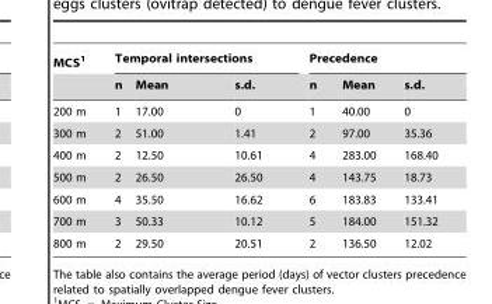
<table><thead><tr><td rowspan="2">MCS<sup>1</sup></td><td colspan="3">Temporal intersections</td><td colspan="3">Precedence</td></tr><tr><td>n</td><td>Mean</td><td>s.d.</td><td>n</td><td>Mean</td><td>s.d.</td></tr></thead><tbody><tr><td>200 m</td><td>1</td><td>17.00</td><td>0</td><td>1</td><td>40.00</td><td>0</td></tr><tr><td>300 m</td><td>2</td><td>51.00</td><td>1.41</td><td>2</td><td>97.00</td><td>35.36</td></tr><tr><td>400 m</td><td>2</td><td>12.50</td><td>10.61</td><td>4</td><td>283.00</td><td>168.40</td></tr><tr><td>500 m</td><td>2</td><td>26.50</td><td>26.50</td><td>4</td><td>143.75</td><td>18.73</td></tr><tr><td>600 m</td><td>4</td><td>35.50</td><td>16.62</td><td>6</td><td>183.83</td><td>133.41</td></tr><tr><td>700 m</td><td>3</td><td>50.33</td><td>10.12</td><td>5</td><td>184.00</td><td>151.32</td></tr><tr><td>800 m</td><td>2</td><td>29.50</td><td>20.51</td><td>2</td><td>136.50</td><td>12.02</td></tr></tbody></table>